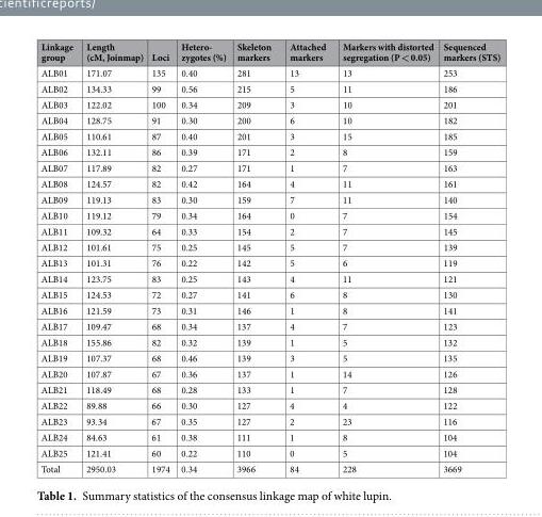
<table><thead><tr><td>Linkage group</td><td>Length (cM, Joinmap)</td><td>Loci</td><td>Hetero- zygotes (%)</td><td>Skeleton markers</td><td>Attached markers</td><td>Markers with distorted segregation (P &lt; 0.05)</td><td>Sequenced markers (STS)</td></tr></thead><tbody><tr><td>ALB01</td><td>171.07</td><td>135</td><td>0.40</td><td>281</td><td>13</td><td>13</td><td>253</td></tr><tr><td>ALB02</td><td>134.33</td><td>99</td><td>0.56</td><td>215</td><td>5</td><td>11</td><td>186</td></tr><tr><td>ALB03</td><td>122.02</td><td>100</td><td>0.34</td><td>209</td><td>3</td><td>10</td><td>201</td></tr><tr><td>ALB04</td><td>128.75</td><td>91</td><td>0.30</td><td>200</td><td>6</td><td>10</td><td>182</td></tr><tr><td>ALB05</td><td>110.61</td><td>87</td><td>0.40</td><td>201</td><td>3</td><td>15</td><td>185</td></tr><tr><td>ALB06</td><td>132.11</td><td>86</td><td>0.39</td><td>171</td><td>2</td><td>8</td><td>159</td></tr><tr><td>ALB07</td><td>117.89</td><td>82</td><td>0.27</td><td>171</td><td>1</td><td>7</td><td>163</td></tr><tr><td>ALB08</td><td>124.57</td><td>82</td><td>0.42</td><td>164</td><td>4</td><td>11</td><td>161</td></tr><tr><td>ALB09</td><td>119.13</td><td>83</td><td>0.30</td><td>159</td><td>7</td><td>11</td><td>140</td></tr><tr><td>ALB10</td><td>119.12</td><td>79</td><td>0.34</td><td>164</td><td>0</td><td>7</td><td>154</td></tr><tr><td>ALB11</td><td>109.32</td><td>64</td><td>0.33</td><td>154</td><td>2</td><td>7</td><td>145</td></tr><tr><td>ALB12</td><td>101.61</td><td>75</td><td>0.25</td><td>145</td><td>5</td><td>7</td><td>139</td></tr><tr><td>ALB13</td><td>101.31</td><td>76</td><td>0.22</td><td>142</td><td>5</td><td>6</td><td>119</td></tr><tr><td>ALB14</td><td>123.75</td><td>83</td><td>0.25</td><td>143</td><td>4</td><td>11</td><td>121</td></tr><tr><td>ALB15</td><td>124.53</td><td>72</td><td>0.27</td><td>141</td><td>6</td><td>8</td><td>130</td></tr><tr><td>ALB16</td><td>121.59</td><td>73</td><td>0.31</td><td>146</td><td>1</td><td>8</td><td>141</td></tr><tr><td>ALB17</td><td>109.47</td><td>68</td><td>0.34</td><td>137</td><td>4</td><td>7</td><td>123</td></tr><tr><td>ALB18</td><td>155.86</td><td>82</td><td>0.32</td><td>139</td><td>1</td><td>5</td><td>132</td></tr><tr><td>ALB19</td><td>107.37</td><td>68</td><td>0.46</td><td>139</td><td>3</td><td>5</td><td>135</td></tr><tr><td>ALB20</td><td>107.87</td><td>67</td><td>0.36</td><td>137</td><td>1</td><td>14</td><td>126</td></tr><tr><td>ALB21</td><td>118.49</td><td>68</td><td>0.28</td><td>133</td><td>1</td><td>7</td><td>128</td></tr><tr><td>ALB22</td><td>89.88</td><td>66</td><td>0.30</td><td>127</td><td>4</td><td>4</td><td>122</td></tr><tr><td>ALB23</td><td>93.34</td><td>67</td><td>0.35</td><td>127</td><td>2</td><td>23</td><td>116</td></tr><tr><td>ALB24</td><td>84.63</td><td>61</td><td>0.38</td><td>111</td><td>1</td><td>8</td><td>104</td></tr><tr><td>ALB25</td><td>121.41</td><td>60</td><td>0.22</td><td>110</td><td>0</td><td>5</td><td>104</td></tr><tr><td>Total</td><td>2950.03</td><td>1974</td><td>0.34</td><td>3966</td><td>84</td><td>228</td><td>3669</td></tr></tbody></table>